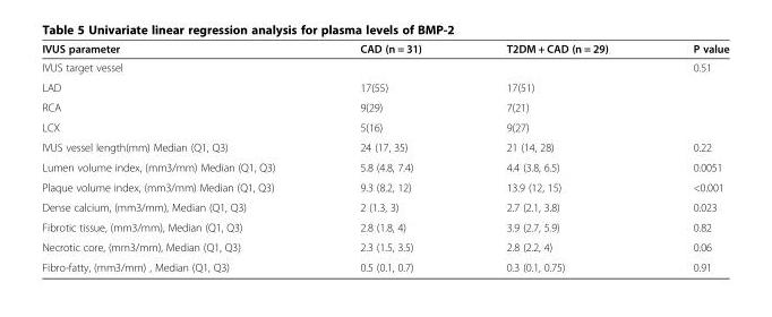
<table><thead><tr><td>IVUS parameter</td><td>CAD (n = 31)</td><td>T2DM + CAD (n = 29)</td><td>P value</td></tr></thead><tbody><tr><td>IVUS target vessel</td><td></td><td></td><td>0.51</td></tr><tr><td>LAD</td><td>17(55)</td><td>17(51)</td><td></td></tr><tr><td>RCA</td><td>9(29)</td><td>7(21)</td><td></td></tr><tr><td>LCX</td><td>5(16)</td><td>9(27)</td><td></td></tr><tr><td>IVUS vessel length(mm) Median (Q1, Q3)</td><td>24 (17, 35)</td><td>21 (14, 28)</td><td>0.22</td></tr><tr><td>Lumen volume index, (mm3/mm) Median (Q1, Q3)</td><td>5.8 (4.8, 7.4)</td><td>4.4 (3.8, 6.5)</td><td>0.0051</td></tr><tr><td>Plaque volume index, (mm3/mm) Median (Q1, Q3)</td><td>9.3 (8.2, 12)</td><td>13.9 (12, 15)</td><td>&lt;0.001</td></tr><tr><td>Dense calcium, (mm3/mm), Median (Q1, Q3)</td><td>2 (1.3, 3)</td><td>2.7 (2.1, 3.8)</td><td>0.023</td></tr><tr><td>Fibrotic tissue, (mm3/mm), Median (Q1, Q3)</td><td>2.8 (1.8, 4)</td><td>3.9 (2.7, 5.9)</td><td>0.82</td></tr><tr><td>Necrotic core, (mm3/mm), Median (Q1, Q3)</td><td>2.3 (1.5, 3.5)</td><td>2.8 (2.2, 4)</td><td>0.06</td></tr><tr><td>Fibro-fatty, (mm3/mm) , Median (Q1, Q3)</td><td>0.5 (0.1, 0.7)</td><td>0.3 (0.1, 0.75)</td><td>0.91</td></tr></tbody></table>